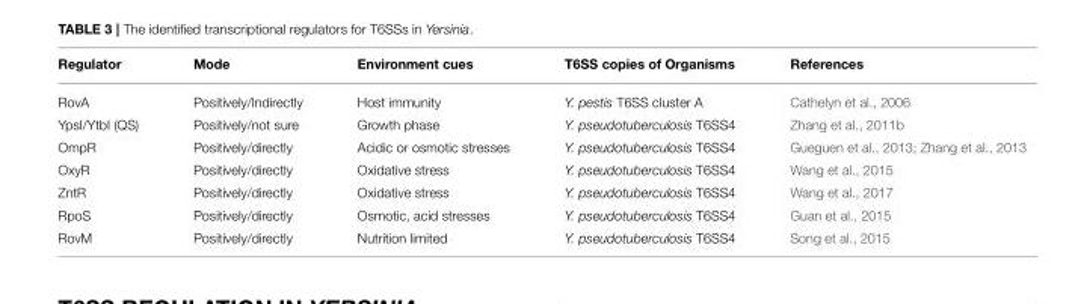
<table><thead><tr><td>Regulator</td><td>Mode</td><td>Environment cues</td><td>T6SS copies of Organisms</td><td>References</td></tr></thead><tbody><tr><td>RovA</td><td>Positively/Indirectly</td><td>Host immunity</td><td>Y. pestis T6SS cluster A</td><td>Cathelyn et al., 2006</td></tr><tr><td>YpsI/YtbI (QS)</td><td>Positively/not sure</td><td>Growth phase</td><td>Y. pseudotuberculosis T6SS4</td><td>Zhang et al., 2011b</td></tr><tr><td>OmpR</td><td>Positively/directly</td><td>Acidic or osmotic stresses</td><td>Y. pseudotuberculosis T6SS4</td><td>Gueguen et al., 2013; Zhang et al., 2013</td></tr><tr><td>OxyR</td><td>Positively/directly</td><td>Oxidative stress</td><td>Y. pseudotuberculosis T6SS4</td><td>Wang et al., 2015</td></tr><tr><td>ZntR</td><td>Positively/directly</td><td>Oxidative stress</td><td>Y. pseudotuberculosis T6SS4</td><td>Wang et al., 2017</td></tr><tr><td>RpoS</td><td>Positively/directly</td><td>Osmotic, acid stresses</td><td>Y. pseudotuberculosis T6SS4</td><td>Guan et al., 2015</td></tr><tr><td>RovM</td><td>Positively/directly</td><td>Nutrition limited</td><td>Y. pseudotuberculosis T6SS4</td><td>Song et al., 2015</td></tr></tbody></table>